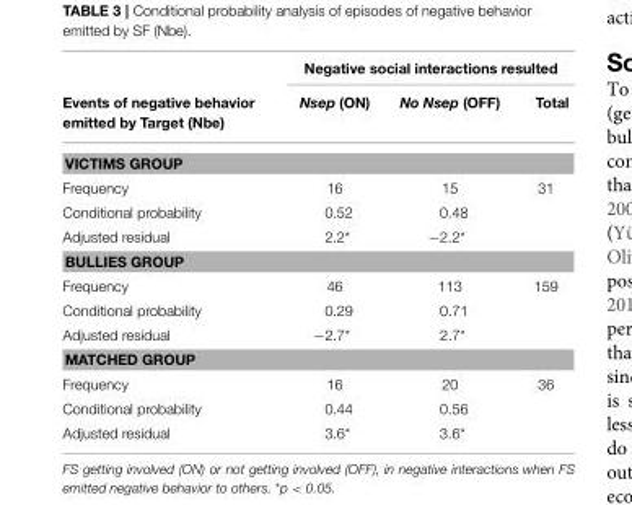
<table><thead><tr><td rowspan="2">Events of negative behavior emitted by Target (Nbe)</td><td colspan="3">Negative social interactions resulted</td></tr><tr><td>Nsep (ON)</td><td>No Nsep (OFF)</td><td>Total</td></tr></thead><tbody><tr><td colspan="4">VICTIMS GROUP</td></tr><tr><td>Frequency</td><td>16</td><td>15</td><td>31</td></tr><tr><td>Conditional probability</td><td>0.52</td><td>0.48</td><td></td></tr><tr><td>Adjusted residual</td><td>2.2*</td><td>−2.2*</td><td></td></tr><tr><td colspan="4">BULLIES GROUP</td></tr><tr><td>Frequency</td><td>46</td><td>113</td><td>159</td></tr><tr><td>Conditional probability</td><td>0.29</td><td>0.71</td><td></td></tr><tr><td>Adjusted residual</td><td>−2.7*</td><td>2.7*</td><td></td></tr><tr><td colspan="4">MATCHED GROUP</td></tr><tr><td>Frequency</td><td>16</td><td>20</td><td>36</td></tr><tr><td>Conditional probability</td><td>0.44</td><td>0.56</td><td></td></tr><tr><td>Adjusted residual</td><td>3.6*</td><td>3.6*</td><td></td></tr></tbody></table>